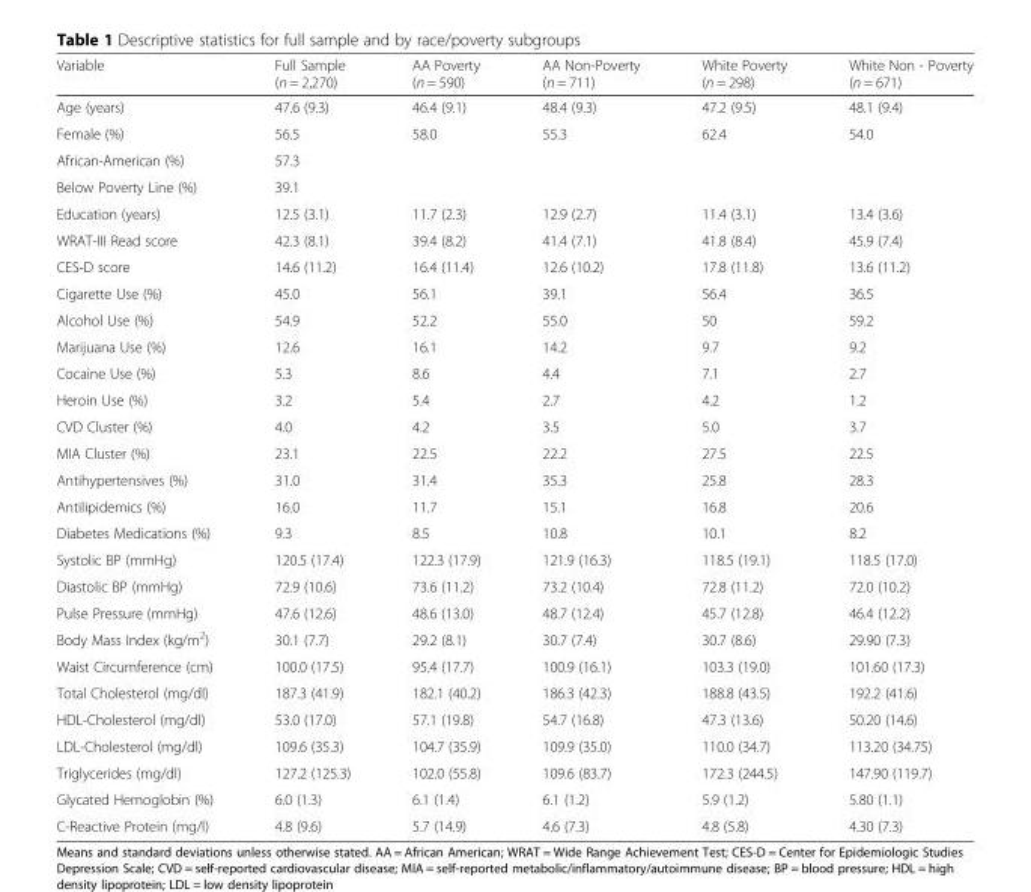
<table><thead><tr><td>Variable</td><td>Full Sample (n = 2,270)</td><td>AA Poverty (n = 590)</td><td>AA Non-Poverty (n = 711)</td><td>White Poverty (n = 298)</td><td>White Non - Poverty (n = 671)</td></tr></thead><tbody><tr><td>Age (years)</td><td>47.6 (9.3)</td><td>46.4 (9.1)</td><td>48.4 (9.3)</td><td>47.2 (9.5)</td><td>48.1 (9.4)</td></tr><tr><td>Female (%)</td><td>56.5</td><td>58.0</td><td>55.3</td><td>62.4</td><td>54.0</td></tr><tr><td>African-American (%)</td><td>57.3</td><td></td><td></td><td></td><td></td></tr><tr><td>Below Poverty Line (%)</td><td>39.1</td><td></td><td></td><td></td><td></td></tr><tr><td>Education (years)</td><td>12.5 (3.1)</td><td>11.7 (2.3)</td><td>12.9 (2.7)</td><td>11.4 (3.1)</td><td>13.4 (3.6)</td></tr><tr><td>WRAT-III Read score</td><td>42.3 (8.1)</td><td>39.4 (8.2)</td><td>41.4 (7.1)</td><td>41.8 (8.4)</td><td>45.9 (7.4)</td></tr><tr><td>CES-D score</td><td>14.6 (11.2)</td><td>16.4 (11.4)</td><td>12.6 (10.2)</td><td>17.8 (11.8)</td><td>13.6 (11.2)</td></tr><tr><td>Cigarette Use (%)</td><td>45.0</td><td>56.1</td><td>39.1</td><td>56.4</td><td>36.5</td></tr><tr><td>Alcohol Use (%)</td><td>54.9</td><td>52.2</td><td>55.0</td><td>50</td><td>59.2</td></tr><tr><td>Marijuana Use (%)</td><td>12.6</td><td>16.1</td><td>14.2</td><td>9.7</td><td>9.2</td></tr><tr><td>Cocaine Use (%)</td><td>5.3</td><td>8.6</td><td>4.4</td><td>7.1</td><td>2.7</td></tr><tr><td>Heroin Use (%)</td><td>3.2</td><td>5.4</td><td>2.7</td><td>4.2</td><td>1.2</td></tr><tr><td>CVD Cluster (%)</td><td>4.0</td><td>4.2</td><td>3.5</td><td>5.0</td><td>3.7</td></tr><tr><td>MIA Cluster (%)</td><td>23.1</td><td>22.5</td><td>22.2</td><td>27.5</td><td>22.5</td></tr><tr><td>Antihypertensives (%)</td><td>31.0</td><td>31.4</td><td>35.3</td><td>25.8</td><td>28.3</td></tr><tr><td>Antilipidemics (%)</td><td>16.0</td><td>11.7</td><td>15.1</td><td>16.8</td><td>20.6</td></tr><tr><td>Diabetes Medications (%)</td><td>9.3</td><td>8.5</td><td>10.8</td><td>10.1</td><td>8.2</td></tr><tr><td>Systolic BP (mmHg)</td><td>120.5 (17.4)</td><td>122.3 (17.9)</td><td>121.9 (16.3)</td><td>118.5 (19.1)</td><td>118.5 (17.0)</td></tr><tr><td>Diastolic BP (mmHg)</td><td>72.9 (10.6)</td><td>73.6 (11.2)</td><td>73.2 (10.4)</td><td>72.8 (11.2)</td><td>72.0 (10.2)</td></tr><tr><td>Pulse Pressure (mmHg)</td><td>47.6 (12.6)</td><td>48.6 (13.0)</td><td>48.7 (12.4)</td><td>45.7 (12.8)</td><td>46.4 (12.2)</td></tr><tr><td>Body Mass Index (kg/m<sup>2</sup>)</td><td>30.1 (7.7)</td><td>29.2 (8.1)</td><td>30.7 (7.4)</td><td>30.7 (8.6)</td><td>29.90 (7.3)</td></tr><tr><td>Waist Circumference (cm)</td><td>100.0 (17.5)</td><td>95.4 (17.7)</td><td>100.9 (16.1)</td><td>103.3 (19.0)</td><td>101.60 (17.3)</td></tr><tr><td>Total Cholesterol (mg/dl)</td><td>187.3 (41.9)</td><td>182.1 (40.2)</td><td>186.3 (42.3)</td><td>188.8 (43.5)</td><td>192.2 (41.6)</td></tr><tr><td>HDL-Cholesterol (mg/dl)</td><td>53.0 (17.0)</td><td>57.1 (19.8)</td><td>54.7 (16.8)</td><td>47.3 (13.6)</td><td>50.20 (14.6)</td></tr><tr><td>LDL-Cholesterol (mg/dl)</td><td>109.6 (35.3)</td><td>104.7 (35.9)</td><td>109.9 (35.0)</td><td>110.0 (34.7)</td><td>113.20 (34.75)</td></tr><tr><td>Triglycerides (mg/dl)</td><td>127.2 (125.3)</td><td>102.0 (55.8)</td><td>109.6 (83.7)</td><td>172.3 (244.5)</td><td>147.90 (119.7)</td></tr><tr><td>Glycated Hemoglobin (%)</td><td>6.0 (1.3)</td><td>6.1 (1.4)</td><td>6.1 (1.2)</td><td>5.9 (1.2)</td><td>5.80 (1.1)</td></tr><tr><td>C-Reactive Protein (mg/l)</td><td>4.8 (9.6)</td><td>5.7 (14.9)</td><td>4.6 (7.3)</td><td>4.8 (5.8)</td><td>4.30 (7.3)</td></tr></tbody></table>